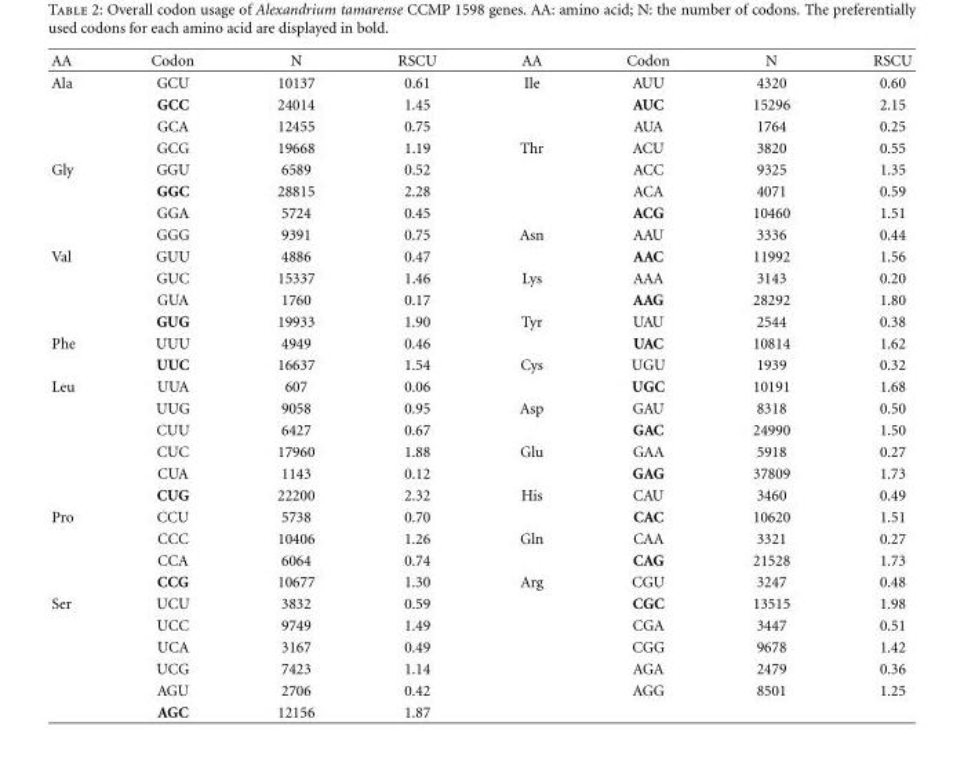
<table><thead><tr><td>AA</td><td>Codon</td><td>N</td><td>RSCU</td><td>AA</td><td>Codon</td><td>N</td><td>RSCU</td></tr></thead><tbody><tr><td rowspan="4">Ala</td><td>GCU</td><td>10137</td><td>0.61</td><td>Ile</td><td>AUU</td><td>4320</td><td>0.60</td></tr><tr><td>GCC</td><td>24014</td><td>1.45</td><td></td><td>AUC</td><td>15296</td><td>2.15</td></tr><tr><td>GCA</td><td>12455</td><td>0.75</td><td></td><td>AUA</td><td>1764</td><td>0.25</td></tr><tr><td>GCG</td><td>19668</td><td>1.19</td><td>Thr</td><td>ACU</td><td>3820</td><td>0.55</td></tr><tr><td rowspan="4">Gly</td><td>GGU</td><td>6589</td><td>0.52</td><td></td><td>ACC</td><td>9325</td><td>1.35</td></tr><tr><td>GGC</td><td>28815</td><td>2.28</td><td></td><td>ACA</td><td>4071</td><td>0.59</td></tr><tr><td>GGA</td><td>5724</td><td>0.45</td><td></td><td>ACG</td><td>10460</td><td>1.51</td></tr><tr><td>GGG</td><td>9391</td><td>0.75</td><td>Asn</td><td>AAU</td><td>3336</td><td>0.44</td></tr><tr><td rowspan="4">Val</td><td>GUU</td><td>4886</td><td>0.47</td><td></td><td>AAC</td><td>11992</td><td>1.56</td></tr><tr><td>GUC</td><td>15337</td><td>1.46</td><td>Lys</td><td>AAA</td><td>3143</td><td>0.20</td></tr><tr><td>GUA</td><td>1760</td><td>0.17</td><td></td><td>AAG</td><td>28292</td><td>1.80</td></tr><tr><td>GUG</td><td>19933</td><td>1.90</td><td>Tyr</td><td>UAU</td><td>2544</td><td>0.38</td></tr><tr><td rowspan="2">Phe</td><td>UUU</td><td>4949</td><td>0.46</td><td></td><td>UAC</td><td>10814</td><td>1.62</td></tr><tr><td>UUC</td><td>16637</td><td>1.54</td><td>Cys</td><td>UGU</td><td>1939</td><td>0.32</td></tr><tr><td rowspan="6">Leu</td><td>UUA</td><td>607</td><td>0.06</td><td></td><td>UGC</td><td>10191</td><td>1.68</td></tr><tr><td>UUG</td><td>9058</td><td>0.95</td><td>Asp</td><td>GAU</td><td>8318</td><td>0.50</td></tr><tr><td>CUU</td><td>6427</td><td>0.67</td><td></td><td>GAC</td><td>24990</td><td>1.50</td></tr><tr><td>CUC</td><td>17960</td><td>1.88</td><td>Glu</td><td>GAA</td><td>5918</td><td>0.27</td></tr><tr><td>CUA</td><td>1143</td><td>0.12</td><td></td><td>GAG</td><td>37809</td><td>1.73</td></tr><tr><td>CUG</td><td>22200</td><td>2.32</td><td>His</td><td>CAU</td><td>3460</td><td>0.49</td></tr><tr><td rowspan="4">Pro</td><td>CCU</td><td>5738</td><td>0.70</td><td></td><td>CAC</td><td>10620</td><td>1.51</td></tr><tr><td>CCC</td><td>10406</td><td>1.26</td><td>Gln</td><td>CAA</td><td>3321</td><td>0.27</td></tr><tr><td>CCA</td><td>6064</td><td>0.74</td><td></td><td>CAG</td><td>21528</td><td>1.73</td></tr><tr><td>CCG</td><td>10677</td><td>1.30</td><td>Arg</td><td>CGU</td><td>3247</td><td>0.48</td></tr><tr><td rowspan="6">Ser</td><td>UCU</td><td>3832</td><td>0.59</td><td></td><td>CGC</td><td>13515</td><td>1.98</td></tr><tr><td>UCC</td><td>9749</td><td>1.49</td><td></td><td>CGA</td><td>3447</td><td>0.51</td></tr><tr><td>UCA</td><td>3167</td><td>0.49</td><td></td><td>CGG</td><td>9678</td><td>1.42</td></tr><tr><td>UCG</td><td>7423</td><td>1.14</td><td></td><td>AGA</td><td>2479</td><td>0.36</td></tr><tr><td>AGU</td><td>2706</td><td>0.42</td><td></td><td>AGG</td><td>8501</td><td>1.25</td></tr><tr><td>AGC</td><td>12156</td><td>1.87</td><td></td><td></td><td></td><td></td></tr></tbody></table>